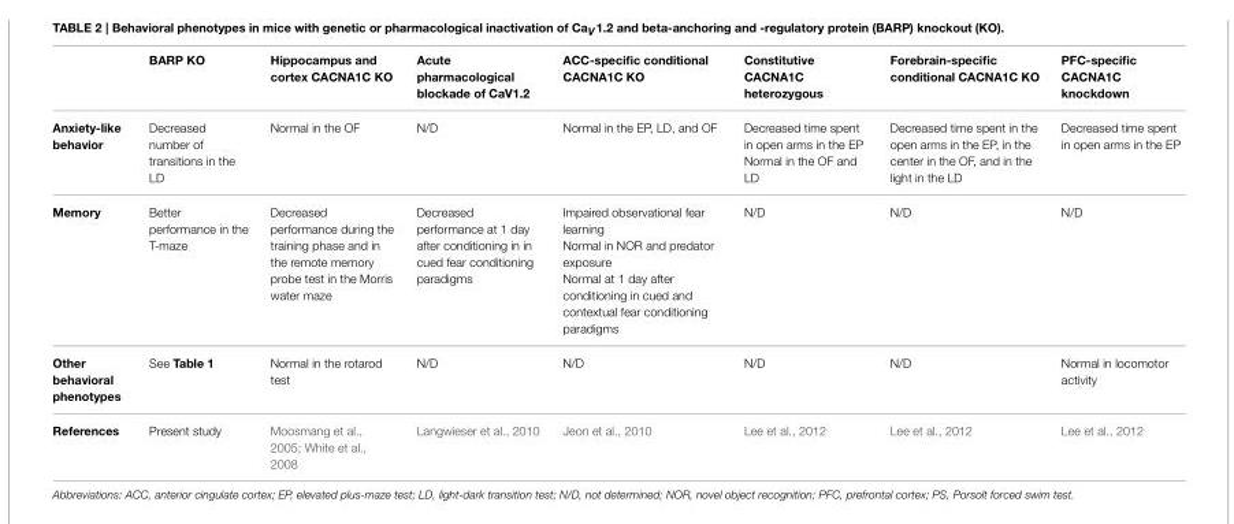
<table><thead><tr><td></td><td>BARP KO</td><td>Hippocampus and cortex CACNA1C KO</td><td>Acute pharmacological blockade of CaV1.2</td><td>ACC-specific conditional CACNA1C KO</td><td>Constitutive CACNA1C heterozygous</td><td>Forebrain-specific conditional CACNA1C KO</td><td>PFC-specific CACNA1C knockdown</td></tr></thead><tbody><tr><td>Anxiety-like behavior</td><td>Decreased number of transitions in the LD</td><td>Normal in the OF</td><td>N/D</td><td>Normal in the EP, LD, and OF</td><td>Decreased time spent in open arms in the EP Normal in the OF and LD</td><td>Decreased time spent in the open arms in the EP, in the center in the OF, and in the light in the LD</td><td>Decreased time spent in open arms in the EP</td></tr><tr><td>Memory</td><td>Better performance in the T-maze</td><td>Decreased performance during the training phase and in the remote memory probe test in the Morris water maze</td><td>Decreased performance at 1 day after conditioning in in cued fear conditioning paradigms</td><td>Impaired observational fear learning Normal in NOR and predator exposure Normal at 1 day after conditioning in cued and contextual fear conditioning paradigms</td><td>N/D</td><td>N/D</td><td>N/D</td></tr><tr><td>Other behavioral phenotypes</td><td>See Table 1</td><td>Normal in the rotarod test</td><td>N/D</td><td>N/D</td><td>N/D</td><td>N/D</td><td>Normal in locomotor activity</td></tr><tr><td>References</td><td>Present study</td><td>Moosmang et al., 2005; White et al., 2008</td><td>Langwieser et al., 2010</td><td>Jeon et al., 2010</td><td>Lee et al., 2012</td><td>Lee et al., 2012</td><td>Lee et al., 2012</td></tr></tbody></table>